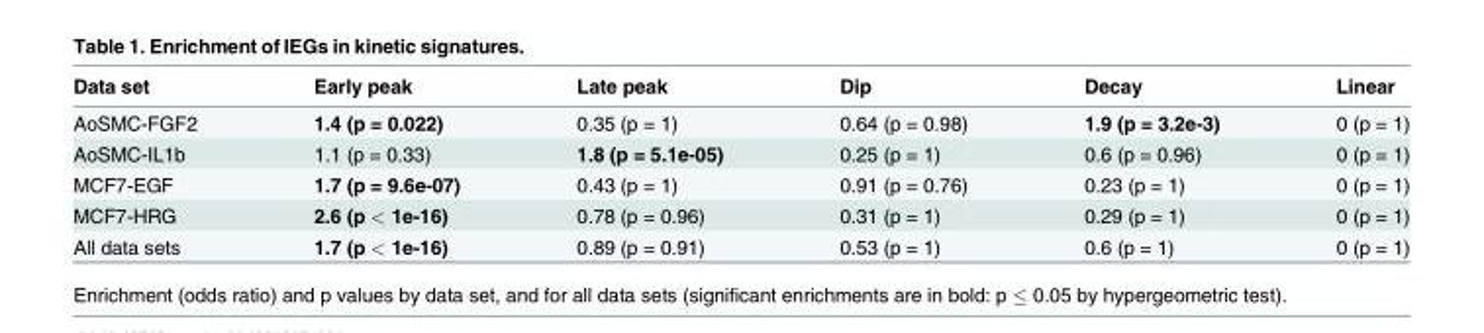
<table><thead><tr><td>Data set</td><td>Early peak</td><td>Late peak</td><td>Dip</td><td>Decay</td><td>Linear</td></tr></thead><tbody><tr><td>AoSMC-FGF2</td><td>1.4 (p = 0.022)</td><td>0.35 (p = 1)</td><td>0.64 (p = 0.98)</td><td>1.9 (p = 3.2e-3)</td><td>0 (p = 1)</td></tr><tr><td>AoSMC-IL1b</td><td>1.1 (p = 0.33)</td><td>1.8 (p = 5.1e-05)</td><td>0.25 (p = 1)</td><td>0.6 (p = 0.96)</td><td>0 (p = 1)</td></tr><tr><td>MCF7-EGF</td><td>1.7 (p = 9.6e-07)</td><td>0.43 (p = 1)</td><td>0.91 (p = 0.76)</td><td>0.23 (p = 1)</td><td>0 (p = 1)</td></tr><tr><td>MCF7-HRG</td><td>2.6 (p &lt; 1e-16)</td><td>0.78 (p = 0.96)</td><td>0.31 (p = 1)</td><td>0.29 (p = 1)</td><td>0 (p = 1)</td></tr><tr><td>All data sets</td><td>1.7 (p &lt; 1e-16)</td><td>0.89 (p = 0.91)</td><td>0.53 (p = 1)</td><td>0.6 (p = 1)</td><td>0 (p = 1)</td></tr></tbody></table>